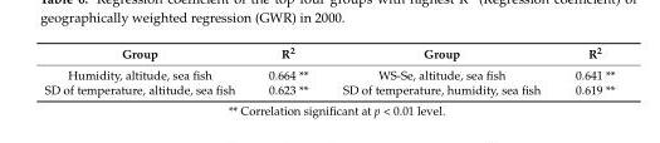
<table><thead><tr><td>Group</td><td>R<sup>2</sup></td><td>Group</td><td>R<sup>2</sup></td></tr></thead><tbody><tr><td>Humidity, altitude, sea fish</td><td>0.664 **</td><td>WS-Se, altitude, sea fish</td><td>0.641 **</td></tr><tr><td>SD of temperature, altitude, sea fish</td><td>0.623 **</td><td>SD of temperature, humidity, sea fish</td><td>0.619 **</td></tr></tbody></table>